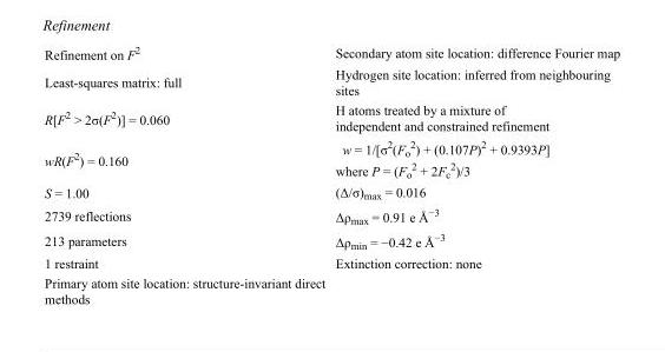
<table><tbody><tr><td>Refinement on F<sup>2</sup></td><td>Secondary atom site location: difference Fourier map</td></tr><tr><td>Least-squares matrix: full</td><td>Hydrogen site location: inferred from neighbouring sites</td></tr><tr><td>R[F<sup>2</sup> &gt; 2σ(F<sup>2</sup>)] = 0.060</td><td>H atoms treated by a mixture of independent and constrained refinement</td></tr><tr><td>wR(F<sup>2</sup>) = 0.160</td><td>w = 1/[σ<sup>2</sup>(F<sub>o</sub> <sup>2</sup>) + (0.107P)<sup>2</sup> + 0.9393P] where P = (F<sub>o</sub> <sup>2</sup> + 2F<sub>c</sub> <sup>2</sup>)/3</td></tr><tr><td>S = 1.00</td><td>(Δ/σ)<sub>max</sub> = 0.016</td></tr><tr><td>2739 reflections</td><td>Δρ<sub>max</sub> = 0.91 e Å<sup>−3</sup></td></tr><tr><td>213 parameters</td><td>Δρ<sub>min</sub> = −0.42 e Å<sup>−3</sup></td></tr><tr><td>1 restraint</td><td>Extinction correction: none</td></tr><tr><td>Primary atom site location: structure-invariant direct methods</td><td></td></tr></tbody></table>